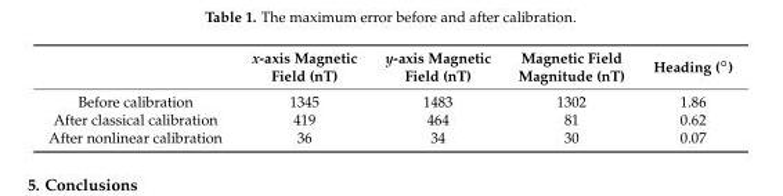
<table><thead><tr><td></td><td>x-axis Magnetic Field (nT)</td><td>y-axis Magnetic Field (nT)</td><td>Magnetic Field Magnitude (nT)</td><td>Heading (◦)</td></tr></thead><tbody><tr><td>Before calibration</td><td>1345</td><td>1483</td><td>1302</td><td>1.86</td></tr><tr><td>After classical calibration</td><td>419</td><td>464</td><td>81</td><td>0.62</td></tr><tr><td>After nonlinear calibration</td><td>36</td><td>34</td><td>30</td><td>0.07</td></tr></tbody></table>